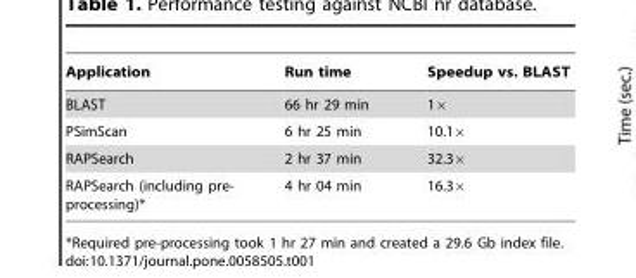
<table><thead><tr><td>Application</td><td>Run time</td><td>Speedup vs. BLAST</td></tr></thead><tbody><tr><td>BLAST</td><td>66 hr 29 min</td><td>1×</td></tr><tr><td>PSimScan</td><td>6 hr 25 min</td><td>10.1×</td></tr><tr><td>RAPSearch</td><td>2 hr 37 min</td><td>32.3×</td></tr><tr><td>RAPSearch (including pre- processing)*</td><td>4 hr 04 min</td><td>16.3×</td></tr></tbody></table>